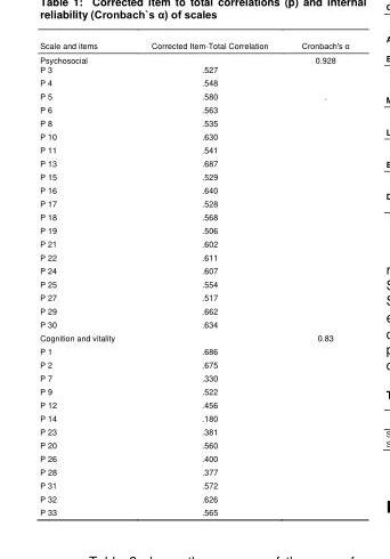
<table><thead><tr><td>Scale and items</td><td>Corrected Item-Total Correlation</td><td>Cronbach&#x27;s α</td></tr></thead><tbody><tr><td>Psychosocial P 3</td><td>.527</td><td>0.928</td></tr><tr><td>P 4</td><td>.548</td><td></td></tr><tr><td>P 5</td><td>.580</td><td>.</td></tr><tr><td>P 6</td><td>.563</td><td></td></tr><tr><td>P 8</td><td>.535</td><td></td></tr><tr><td>P 10</td><td>.630</td><td></td></tr><tr><td>P 11</td><td>.541</td><td></td></tr><tr><td>P 13</td><td>.687</td><td></td></tr><tr><td>P 15</td><td>.529</td><td></td></tr><tr><td>P 16</td><td>.640</td><td></td></tr><tr><td>P 17</td><td>.528</td><td></td></tr><tr><td>P 18</td><td>.568</td><td></td></tr><tr><td>P 19</td><td>.506</td><td></td></tr><tr><td>P 21</td><td>.602</td><td></td></tr><tr><td>P 22</td><td>.611</td><td></td></tr><tr><td>P 24</td><td>.607</td><td></td></tr><tr><td>P 25</td><td>.554</td><td></td></tr><tr><td>P 27</td><td>.517</td><td></td></tr><tr><td>P 29</td><td>.662</td><td></td></tr><tr><td>P 30</td><td>.634</td><td></td></tr><tr><td>Cognition and vitality</td><td></td><td>0.83</td></tr><tr><td>P 1</td><td>.686</td><td></td></tr><tr><td>P 2</td><td>.675</td><td></td></tr><tr><td>P 7</td><td>.330</td><td></td></tr><tr><td>P 9</td><td>.522</td><td></td></tr><tr><td>P 12</td><td>.456</td><td></td></tr><tr><td>P 14</td><td>.180</td><td></td></tr><tr><td>P 23</td><td>.381</td><td></td></tr><tr><td>P 20</td><td>.560</td><td></td></tr><tr><td>P 26</td><td>.400</td><td></td></tr><tr><td>P 28</td><td>.377</td><td></td></tr><tr><td>P 31</td><td>.572</td><td></td></tr><tr><td>P 32</td><td>.626</td><td></td></tr><tr><td>P 33</td><td>.565</td><td></td></tr></tbody></table>